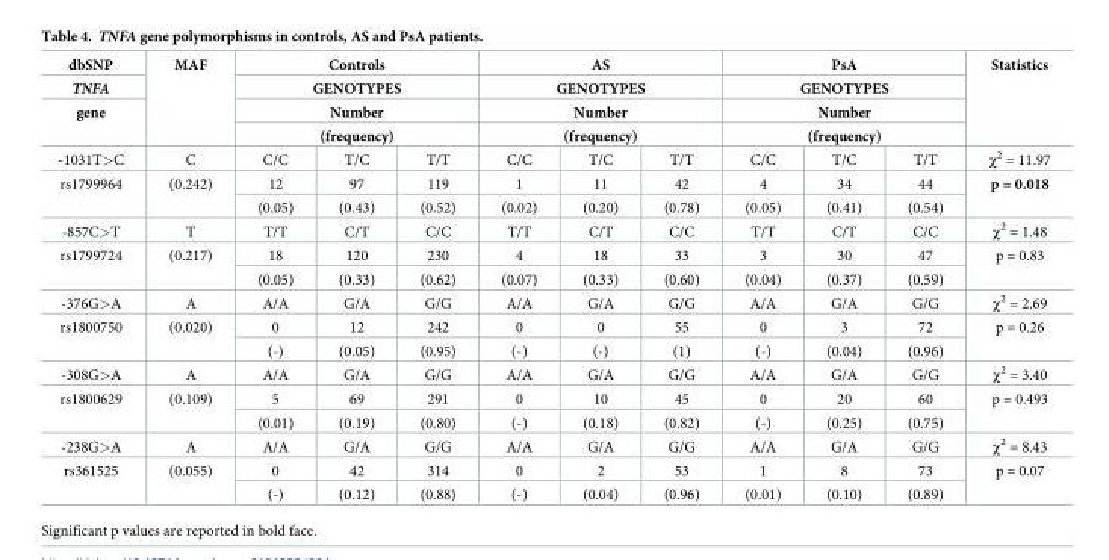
<table><thead><tr><td rowspan="5">dbSNP TNFA gene -1031T&gt;C</td><td rowspan="5">MAF C</td><td rowspan="4" colspan="3">Controls GENOTYPES Number (frequency)</td><td rowspan="4" colspan="3">AS GENOTYPES Number (frequency)</td><td rowspan="4" colspan="3">PsA GENOTYPES Number (frequency)</td><td rowspan="5">Statistics χ<sup>2</sup> = 11.97</td></tr><tr></tr><tr></tr><tr></tr><tr><td>C/C</td><td>T/C</td><td>T/T</td><td>C/C</td><td>T/C</td><td>T/T</td><td>C/C</td><td>T/C</td><td>T/T</td></tr></thead><tbody><tr><td rowspan="2">rs1799964</td><td rowspan="2">(0.242)</td><td>12</td><td>97</td><td>119</td><td>1</td><td>11</td><td>42</td><td>4</td><td>34</td><td>44</td><td rowspan="2">p = 0.018</td></tr><tr><td>(0.05)</td><td>(0.43)</td><td>(0.52)</td><td>(0.02)</td><td>(0.20)</td><td>(0.78)</td><td>(0.05)</td><td>(0.41)</td><td>(0.54)</td></tr><tr><td>-857C&gt;T</td><td>T</td><td>T/T</td><td>C/T</td><td>C/C</td><td>T/T</td><td>C/T</td><td>C/C</td><td>T/T</td><td>C/T</td><td>C/C</td><td>χ<sup>2</sup> = 1.48</td></tr><tr><td rowspan="2">rs1799724</td><td rowspan="2">(0.217)</td><td>18</td><td>120</td><td>230</td><td>4</td><td>18</td><td>33</td><td>3</td><td>30</td><td>47</td><td rowspan="2">p = 0.83</td></tr><tr><td>(0.05)</td><td>(0.33)</td><td>(0.62)</td><td>(0.07)</td><td>(0.33)</td><td>(0.60)</td><td>(0.04)</td><td>(0.37)</td><td>(0.59)</td></tr><tr><td>-376G&gt;A</td><td>A</td><td>A/A</td><td>G/A</td><td>G/G</td><td>A/A</td><td>G/A</td><td>G/G</td><td>A/A</td><td>G/A</td><td>G/G</td><td>χ<sup>2</sup> = 2.69</td></tr><tr><td rowspan="2">rs1800750</td><td rowspan="2">(0.020)</td><td>0</td><td>12</td><td>242</td><td>0</td><td>0</td><td>55</td><td>0</td><td>3</td><td>72</td><td rowspan="2">p = 0.26</td></tr><tr><td>(-)</td><td>(0.05)</td><td>(0.95)</td><td>(-)</td><td>(-)</td><td>(1)</td><td>(-)</td><td>(0.04)</td><td>(0.96)</td></tr><tr><td>-308G&gt;A</td><td>A</td><td>A/A</td><td>G/A</td><td>G/G</td><td>A/A</td><td>G/A</td><td>G/G</td><td>A/A</td><td>G/A</td><td>G/G</td><td>χ<sup>2</sup> = 3.40</td></tr><tr><td rowspan="2">rs1800629</td><td rowspan="2">(0.109)</td><td>5</td><td>69</td><td>291</td><td>0</td><td>10</td><td>45</td><td>0</td><td>20</td><td>60</td><td rowspan="2">p = 0.493</td></tr><tr><td>(0.01)</td><td>(0.19)</td><td>(0.80)</td><td>(-)</td><td>(0.18)</td><td>(0.82)</td><td>(-)</td><td>(0.25)</td><td>(0.75)</td></tr><tr><td>-238G&gt;A</td><td>A</td><td>A/A</td><td>G/A</td><td>G/G</td><td>A/A</td><td>G/A</td><td>G/G</td><td>A/A</td><td>G/A</td><td>G/G</td><td>χ<sup>2</sup> = 8.43</td></tr><tr><td rowspan="2">rs361525</td><td rowspan="2">(0.055)</td><td>0</td><td>42</td><td>314</td><td>0</td><td>2</td><td>53</td><td>1</td><td>8</td><td>73</td><td rowspan="2">p = 0.07</td></tr><tr><td>(-)</td><td>(0.12)</td><td>(0.88)</td><td>(-)</td><td>(0.04)</td><td>(0.96)</td><td>(0.01)</td><td>(0.10)</td><td>(0.89)</td></tr></tbody></table>